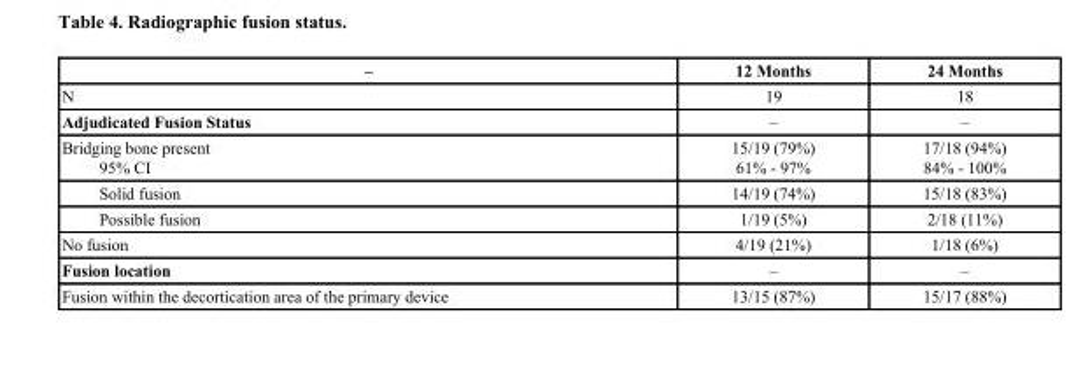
<table><thead><tr><td>–</td><td>12 Months</td><td>24 Months</td></tr></thead><tbody><tr><td>N</td><td>19</td><td>18</td></tr><tr><td>Adjudicated Fusion Status</td><td>–</td><td>–</td></tr><tr><td>Bridging bone present 95% CI</td><td>15/19 (79%) 61% - 97%</td><td>17/18 (94%) 84% - 100%</td></tr><tr><td>Solid fusion</td><td>14/19 (74%)</td><td>15/18 (83%)</td></tr><tr><td>Possible fusion</td><td>1/19 (5%)</td><td>2/18 (11%)</td></tr><tr><td>No fusion</td><td>4/19 (21%)</td><td>1/18 (6%)</td></tr><tr><td>Fusion location</td><td>–</td><td>–</td></tr><tr><td>Fusion within the decortication area of the primary device</td><td>13/15 (87%)</td><td>15/17 (88%)</td></tr></tbody></table>